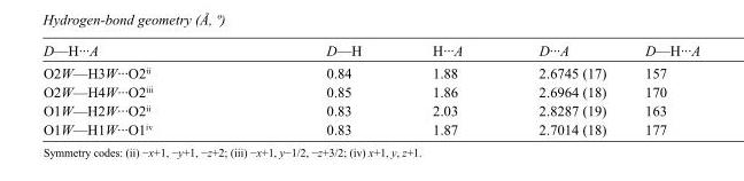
<table><tbody><tr><td>D—H···A</td><td>D—H</td><td>H···A</td><td>D···A</td><td>D—H···A</td></tr><tr><td>O2W—H3W···O2<sup>ii</sup></td><td>0.84</td><td>1.88</td><td>2.6745 (17)</td><td>157</td></tr><tr><td>O2W—H4W···O2<sup>iii</sup></td><td>0.85</td><td>1.86</td><td>2.6964 (18)</td><td>170</td></tr><tr><td>O1W—H2W···O2<sup>ii</sup></td><td>0.83</td><td>2.03</td><td>2.8287 (19)</td><td>163</td></tr><tr><td>O1W—H1W···O1<sup>iv</sup></td><td>0.83</td><td>1.87</td><td>2.7014 (18)</td><td>177</td></tr></tbody></table>